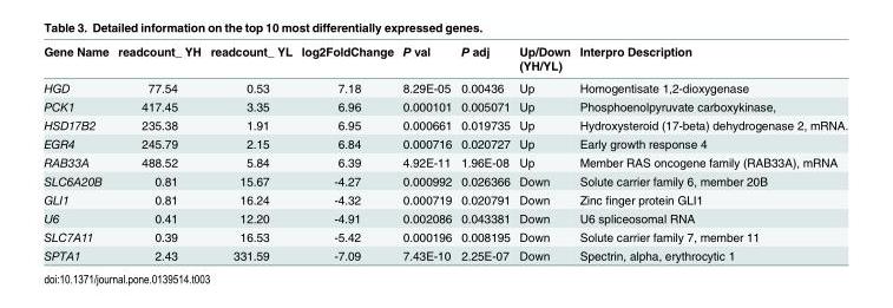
<table><thead><tr><td>Gene Name</td><td>readcount_ YH</td><td>readcount_ YL</td><td>log2FoldChange</td><td>P val</td><td>P adj</td><td>Up/Down (YH/YL)</td><td>Interpro Description</td></tr></thead><tbody><tr><td>HGD</td><td>77.54</td><td>0.53</td><td>7.18</td><td>8.29E-05</td><td>0.00436</td><td>Up</td><td>Homogentisate 1,2-dioxygenase</td></tr><tr><td>PCK1</td><td>417.45</td><td>3.35</td><td>6.96</td><td>0.000101</td><td>0.005071</td><td>Up</td><td>Phosphoenolpyruvate carboxykinase,</td></tr><tr><td>HSD17B2</td><td>235.38</td><td>1.91</td><td>6.95</td><td>0.000661</td><td>0.019735</td><td>Up</td><td>Hydroxysteroid (17-beta) dehydrogenase 2, mRNA.</td></tr><tr><td>EGR4</td><td>245.79</td><td>2.15</td><td>6.84</td><td>0.000716</td><td>0.020727</td><td>Up</td><td>Early growth response 4</td></tr><tr><td>RAB33A</td><td>488.52</td><td>5.84</td><td>6.39</td><td>4.92E-11</td><td>1.96E-08</td><td>Up</td><td>Member RAS oncogene family (RAB33A), mRNA</td></tr><tr><td>SLC6A20B</td><td>0.81</td><td>15.67</td><td>-4.27</td><td>0.000992</td><td>0.026366</td><td>Down</td><td>Solute carrier family 6, member 20B</td></tr><tr><td>GLI1</td><td>0.81</td><td>16.24</td><td>-4.32</td><td>0.000719</td><td>0.020791</td><td>Down</td><td>Zinc finger protein GLI1</td></tr><tr><td>U6</td><td>0.41</td><td>12.20</td><td>-4.91</td><td>0.002086</td><td>0.043381</td><td>Down</td><td>U6 spliceosomal RNA</td></tr><tr><td>SLC7A11</td><td>0.39</td><td>16.53</td><td>-5.42</td><td>0.000196</td><td>0.008195</td><td>Down</td><td>Solute carrier family 7, member 11</td></tr><tr><td>SPTA1</td><td>2.43</td><td>331.59</td><td>-7.09</td><td>7.43E-10</td><td>2.25E-07</td><td>Down</td><td>Spectrin, alpha, erythrocytic 1</td></tr></tbody></table>